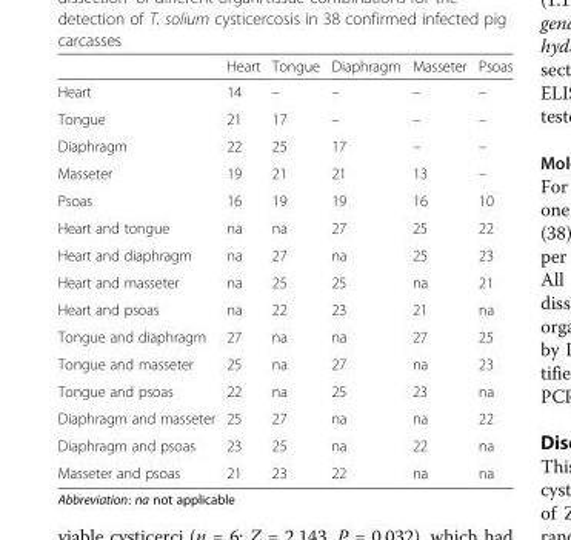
<table><thead><tr><td></td><td>Heart</td><td>Tongue</td><td>Diaphragm</td><td>Masseter</td><td>Psoas</td></tr></thead><tbody><tr><td>Heart</td><td>14</td><td>–</td><td>–</td><td>–</td><td>–</td></tr><tr><td>Tongue</td><td>21</td><td>17</td><td>–</td><td>–</td><td>–</td></tr><tr><td>Diaphragm</td><td>22</td><td>25</td><td>17</td><td>–</td><td>–</td></tr><tr><td>Masseter</td><td>19</td><td>21</td><td>21</td><td>13</td><td>–</td></tr><tr><td>Psoas</td><td>16</td><td>19</td><td>19</td><td>16</td><td>10</td></tr><tr><td>Heart and tongue</td><td>na</td><td>na</td><td>27</td><td>25</td><td>22</td></tr><tr><td>Heart and diaphragm</td><td>na</td><td>27</td><td>na</td><td>25</td><td>23</td></tr><tr><td>Heart and masseter</td><td>na</td><td>25</td><td>25</td><td>na</td><td>21</td></tr><tr><td>Heart and psoas</td><td>na</td><td>22</td><td>23</td><td>21</td><td>na</td></tr><tr><td>Tongue and diaphragm</td><td>27</td><td>na</td><td>na</td><td>27</td><td>25</td></tr><tr><td>Tongue and masseter</td><td>25</td><td>na</td><td>27</td><td>na</td><td>23</td></tr><tr><td>Tongue and psoas</td><td>22</td><td>na</td><td>25</td><td>23</td><td>na</td></tr><tr><td>Diaphragm and masseter</td><td>25</td><td>27</td><td>na</td><td>na</td><td>22</td></tr><tr><td>Diaphragm and psoas</td><td>23</td><td>25</td><td>na</td><td>22</td><td>na</td></tr><tr><td>Masseter and psoas</td><td>21</td><td>23</td><td>22</td><td>na</td><td>na</td></tr></tbody></table>